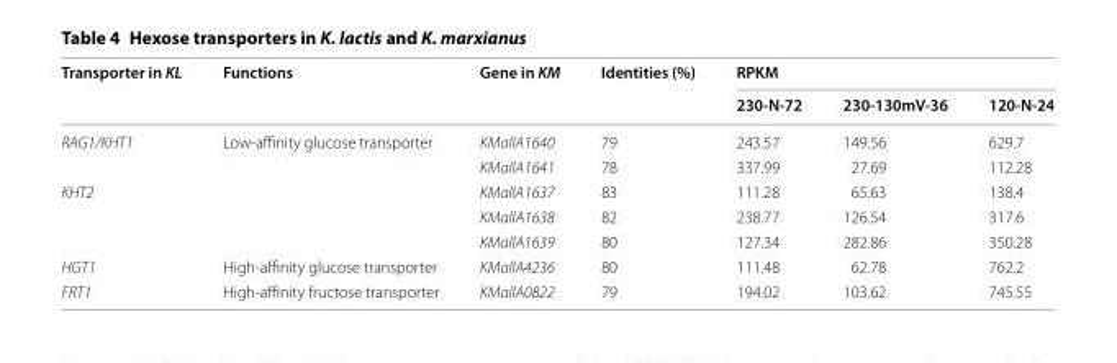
<table><thead><tr><td rowspan="2">Transporter in KL</td><td rowspan="2">Functions</td><td rowspan="2">Gene in KM</td><td rowspan="2">Identities (%)</td><td colspan="3">RPKM</td></tr><tr><td>230‑N‑72</td><td>230‑130mV‑36</td><td>120‑N‑24</td></tr></thead><tbody><tr><td rowspan="2">RAG1/KHT1</td><td rowspan="5">Low-affinity glucose transporter</td><td>KMallA1640</td><td>79</td><td>243.57</td><td>149.56</td><td>629.7</td></tr><tr><td>KMallA1641</td><td>78</td><td>337.99</td><td>27.69</td><td>112.28</td></tr><tr><td rowspan="3">KHT2</td><td>KMallA1637</td><td>83</td><td>111.28</td><td>65.63</td><td>138.4</td></tr><tr><td>KMallA1638</td><td>82</td><td>238.77</td><td>126.54</td><td>317.6</td></tr><tr><td>KMallA1639</td><td>80</td><td>127.34</td><td>282.86</td><td>350.28</td></tr><tr><td>HGT1</td><td>High-affinity glucose transporter</td><td>KMallA4236</td><td>80</td><td>111.48</td><td>62.78</td><td>762.2</td></tr><tr><td>FRT1</td><td>High-affinity fructose transporter</td><td>KMallA0822</td><td>79</td><td>194.02</td><td>103.62</td><td>745.55</td></tr></tbody></table>